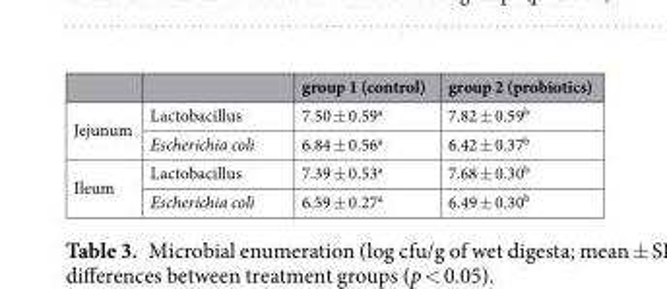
<table><thead><tr><td></td><td></td><td>group 1 (control)</td><td>group 2 (probiotics)</td></tr></thead><tbody><tr><td rowspan="2">Jejunum</td><td>Lactobacillus</td><td>7.50 ± 0.59<sup>a</sup></td><td>7.82 ± 0.59<sup>b</sup></td></tr><tr><td>Escherichia coli</td><td>6.84 ± 0.56<sup>a</sup></td><td>6.42 ± 0.37<sup>b</sup></td></tr><tr><td rowspan="2">Ileum</td><td>Lactobacillus</td><td>7.39 ± 0.53<sup>a</sup></td><td>7.68 ± 0.30<sup>b</sup></td></tr><tr><td>Escherichia coli</td><td>6.59 ± 0.27<sup>a</sup></td><td>6.49 ± 0.30<sup>b</sup></td></tr></tbody></table>